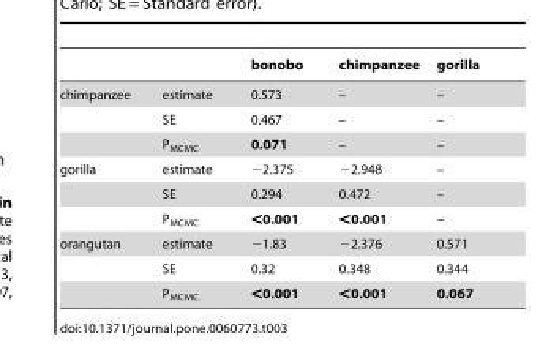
<table><thead><tr><td></td><td></td><td>bonobo</td><td>chimpanzee</td><td>gorilla</td></tr></thead><tbody><tr><td rowspan="3">chimpanzee</td><td>estimate</td><td>0.573</td><td>–</td><td>–</td></tr><tr><td>SE</td><td>0.467</td><td>–</td><td>–</td></tr><tr><td>P<sub>MCMC</sub></td><td>0.071</td><td>–</td><td>–</td></tr><tr><td rowspan="3">gorilla</td><td>estimate</td><td>−2.375</td><td>−2.948</td><td>–</td></tr><tr><td>SE</td><td>0.294</td><td>0.472</td><td>–</td></tr><tr><td>P<sub>MCMC</sub></td><td>&lt;0.001</td><td>&lt;0.001</td><td>–</td></tr><tr><td rowspan="3">orangutan</td><td>estimate</td><td>−1.83</td><td>−2.376</td><td>0.571</td></tr><tr><td>SE</td><td>0.32</td><td>0.348</td><td>0.344</td></tr><tr><td>P<sub>MCMC</sub></td><td>&lt;0.001</td><td>&lt;0.001</td><td>0.067</td></tr></tbody></table>